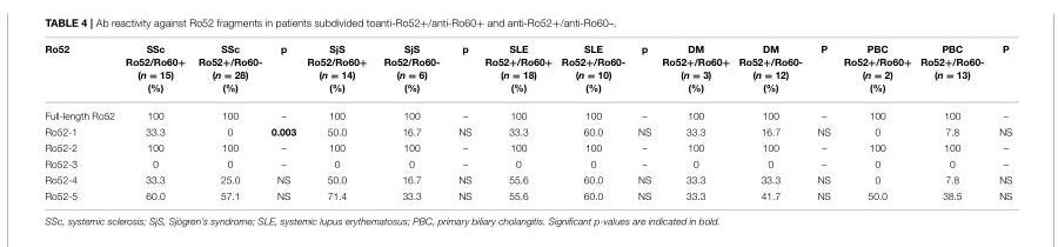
<table><thead><tr><td>Ro52</td><td>SSc Ro52/Ro60+ (n = 15) (%)</td><td>SSc Ro52+/Ro60- (n = 28) (%)</td><td>p</td><td>SjS Ro52/Ro60+ (n = 14) (%)</td><td>SjS Ro52/Ro60- (n = 6) (%)</td><td>p</td><td>SLE Ro52+/Ro60+ (n = 18) (%)</td><td>SLE Ro52+/Ro60- (n = 10) (%)</td><td>p</td><td>DM Ro52+/Ro60+ (n = 3) (%)</td><td>DM Ro52+/Ro60- (n = 12) (%)</td><td>P</td><td>PBC Ro52+/Ro60+ (n = 2) (%)</td><td>PBC Ro52+/Ro60- (n = 13)</td><td>P</td></tr></thead><tbody><tr><td>Full-length Ro52</td><td>100</td><td>100</td><td>–</td><td>100</td><td>100</td><td>–</td><td>100</td><td>100</td><td>–</td><td>100</td><td>100</td><td>–</td><td>100</td><td>100</td><td>–</td></tr><tr><td>Ro52-1</td><td>33.3</td><td>0</td><td>0.003</td><td>50.0</td><td>16.7</td><td>NS</td><td>33.3</td><td>60.0</td><td>NS</td><td>33.3</td><td>16.7</td><td>NS</td><td>0</td><td>7.8</td><td>NS</td></tr><tr><td>Ro52-2</td><td>100</td><td>100</td><td>–</td><td>100</td><td>100</td><td>–</td><td>100</td><td>100</td><td>–</td><td>100</td><td>100</td><td>–</td><td>100</td><td>100</td><td>–</td></tr><tr><td>Ro52-3</td><td>0</td><td>0</td><td>–</td><td>0</td><td>0</td><td>–</td><td>0</td><td>0</td><td>–</td><td>0</td><td>0</td><td>–</td><td>0</td><td>0</td><td>–</td></tr><tr><td>Ro52-4</td><td>33.3</td><td>25.0</td><td>NS</td><td>50.0</td><td>16.7</td><td>NS</td><td>55.6</td><td>60.0</td><td>NS</td><td>33.3</td><td>33.3</td><td>NS</td><td>0</td><td>7.8</td><td>NS</td></tr><tr><td>Ro52-5</td><td>60.0</td><td>57.1</td><td>NS</td><td>71.4</td><td>33.3</td><td>NS</td><td>55.6</td><td>60.0</td><td>NS</td><td>33.3</td><td>41.7</td><td>NS</td><td>50.0</td><td>38.5</td><td>NS</td></tr></tbody></table>